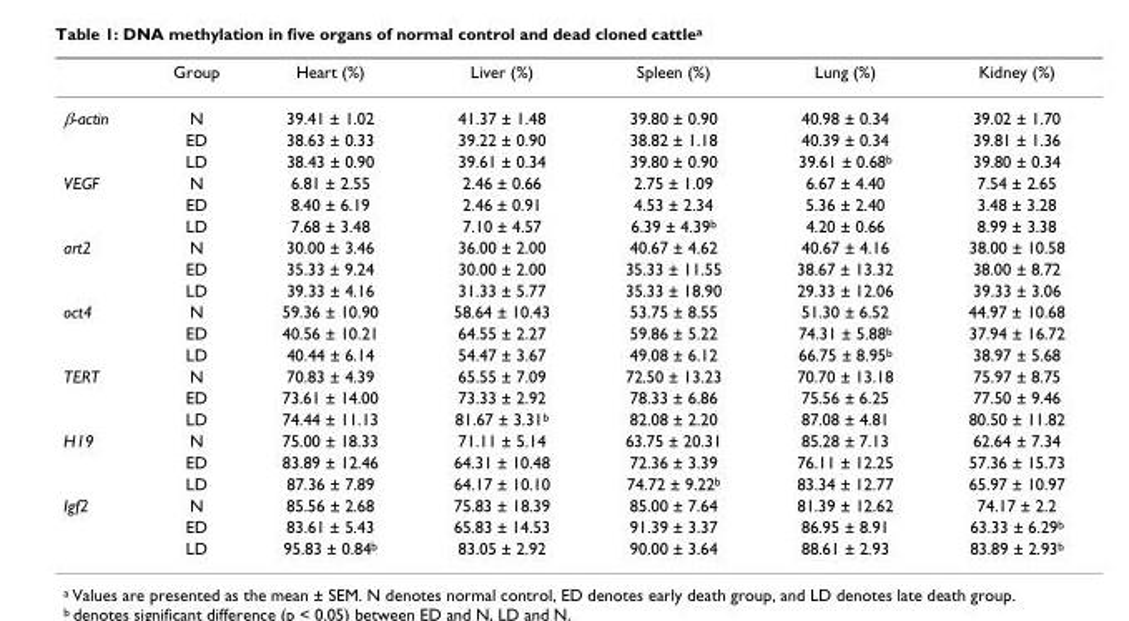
<table><thead><tr><td></td><td>Group</td><td>Heart (%)</td><td>Liver (%)</td><td>Spleen (%)</td><td>Lung (%)</td><td>Kidney (%)</td></tr></thead><tbody><tr><td rowspan="3">β-actin</td><td>N</td><td>39.41 ± 1.02</td><td>41.37 ± 1.48</td><td>39.80 ± 0.90</td><td>40.98 ± 0.34</td><td>39.02 ± 1.70</td></tr><tr><td>ED</td><td>38.63 ± 0.33</td><td>39.22 ± 0.90</td><td>38.82 ± 1.18</td><td>40.39 ± 0.34</td><td>39.81 ± 1.36</td></tr><tr><td>LD</td><td>38.43 ± 0.90</td><td>39.61 ± 0.34</td><td>39.80 ± 0.90</td><td>39.61 ± 0.68<sup>b</sup></td><td>39.80 ± 0.34</td></tr><tr><td rowspan="3">VEGF</td><td>N</td><td>6.81 ± 2.55</td><td>2.46 ± 0.66</td><td>2.75 ± 1.09</td><td>6.67 ± 4.40</td><td>7.54 ± 2.65</td></tr><tr><td>ED</td><td>8.40 ± 6.19</td><td>2.46 ± 0.91</td><td>4.53 ± 2.34</td><td>5.36 ± 2.40</td><td>3.48 ± 3.28</td></tr><tr><td>LD</td><td>7.68 ± 3.48</td><td>7.10 ± 4.57</td><td>6.39 ± 4.39<sup>b</sup></td><td>4.20 ± 0.66</td><td>8.99 ± 3.38</td></tr><tr><td rowspan="3">art2</td><td>N</td><td>30.00 ± 3.46</td><td>36.00 ± 2.00</td><td>40.67 ± 4.62</td><td>40.67 ± 4.16</td><td>38.00 ± 10.58</td></tr><tr><td>ED</td><td>35.33 ± 9.24</td><td>30.00 ± 2.00</td><td>35.33 ± 11.55</td><td>38.67 ± 13.32</td><td>38.00 ± 8.72</td></tr><tr><td>LD</td><td>39.33 ± 4.16</td><td>31.33 ± 5.77</td><td>35.33 ± 18.90</td><td>29.33 ± 12.06</td><td>39.33 ± 3.06</td></tr><tr><td rowspan="3">oct4</td><td>N</td><td>59.36 ± 10.90</td><td>58.64 ± 10.43</td><td>53.75 ± 8.55</td><td>51.30 ± 6.52</td><td>44.97 ± 10.68</td></tr><tr><td>ED</td><td>40.56 ± 10.21</td><td>64.55 ± 2.27</td><td>59.86 ± 5.22</td><td>74.31 ± 5.88<sup>b</sup></td><td>37.94 ± 16.72</td></tr><tr><td>LD</td><td>40.44 ± 6.14</td><td>54.47 ± 3.67</td><td>49.08 ± 6.12</td><td>66.75 ± 8.95<sup>b</sup></td><td>38.97 ± 5.68</td></tr><tr><td rowspan="3">TERT</td><td>N</td><td>70.83 ± 4.39</td><td>65.55 ± 7.09</td><td>72.50 ± 13.23</td><td>70.70 ± 13.18</td><td>75.97 ± 8.75</td></tr><tr><td>ED</td><td>73.61 ± 14.00</td><td>73.33 ± 2.92</td><td>78.33 ± 6.86</td><td>75.56 ± 6.25</td><td>77.50 ± 9.46</td></tr><tr><td>LD</td><td>74.44 ± 11.13</td><td>81.67 ± 3.31<sup>b</sup></td><td>82.08 ± 2.20</td><td>87.08 ± 4.81</td><td>80.50 ± 11.82</td></tr><tr><td rowspan="3">H19</td><td>N</td><td>75.00 ± 18.33</td><td>71.11 ± 5.14</td><td>63.75 ± 20.31</td><td>85.28 ± 7.13</td><td>62.64 ± 7.34</td></tr><tr><td>ED</td><td>83.89 ± 12.46</td><td>64.31 ± 10.48</td><td>72.36 ± 3.39</td><td>76.11 ± 12.25</td><td>57.36 ± 15.73</td></tr><tr><td>LD</td><td>87.36 ± 7.89</td><td>64.17 ± 10.10</td><td>74.72 ± 9.22<sup>b</sup></td><td>83.34 ± 12.77</td><td>65.97 ± 10.97</td></tr><tr><td rowspan="3">Igf2</td><td>N</td><td>85.56 ± 2.68</td><td>75.83 ± 18.39</td><td>85.00 ± 7.64</td><td>81.39 ± 12.62</td><td>74.17 ± 2.2</td></tr><tr><td>ED</td><td>83.61 ± 5.43</td><td>65.83 ± 14.53</td><td>91.39 ± 3.37</td><td>86.95 ± 8.91</td><td>63.33 ± 6.29<sup>b</sup></td></tr><tr><td>LD</td><td>95.83 ± 0.84<sup>b</sup></td><td>83.05 ± 2.92</td><td>90.00 ± 3.64</td><td>88.61 ± 2.93</td><td>83.89 ± 2.93<sup>b</sup></td></tr></tbody></table>